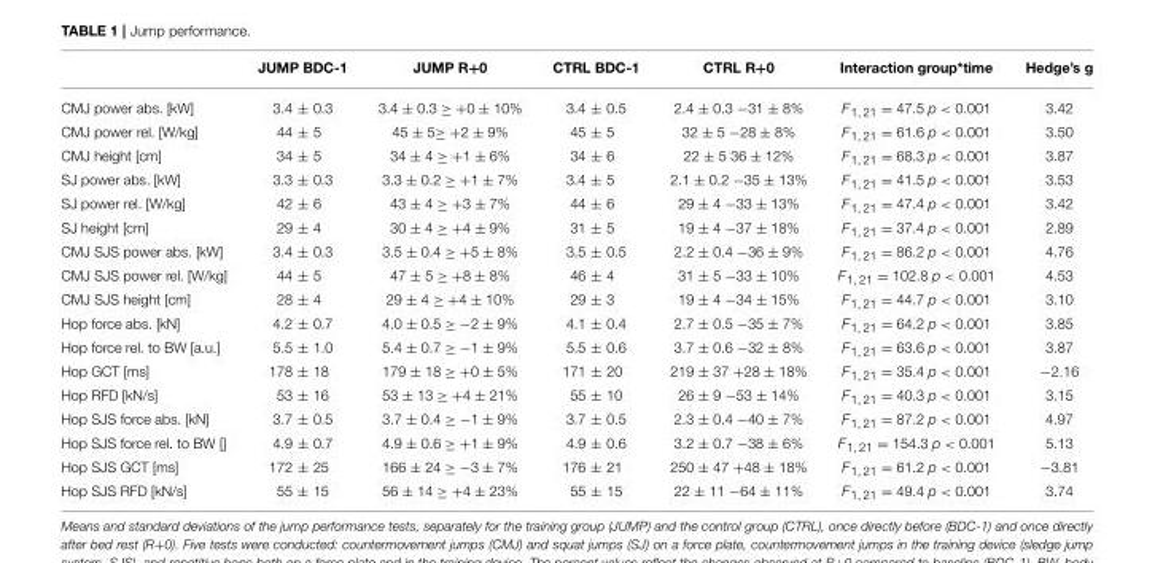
<table><thead><tr><td></td><td>JUMP BDC-1</td><td>JUMP R+0</td><td>CTRL BDC-1</td><td>CTRL R+0</td><td>Interaction group*time</td><td>Hedge’s g</td></tr></thead><tbody><tr><td>CMJ power abs. [kW]</td><td>3.4 ± 0.3</td><td>3.4 ± 0.3 ≥ +0 ± 10%</td><td>3.4 ± 0.5</td><td>2.4 ± 0.3 −31 ± 8%</td><td>F<sub>1, 21</sub> = 47.5 p &lt; 0.001</td><td>3.42</td></tr><tr><td>CMJ power rel. [W/kg]</td><td>44 ± 5</td><td>45 ± 5≥ +2 ± 9%</td><td>45 ± 5</td><td>32 ± 5 −28 ± 8%</td><td>F<sub>1, 21</sub> = 61.6 p &lt; 0.001</td><td>3.50</td></tr><tr><td>CMJ height [cm]</td><td>34 ± 5</td><td>34 ± 4 ≥ +1 ± 6%</td><td>34 ± 6</td><td>22 ± 5 36 ± 12%</td><td>F<sub>1, 21</sub> = 68.3 p &lt; 0.001</td><td>3.87</td></tr><tr><td>SJ power abs. [kW]</td><td>3.3 ± 0.3</td><td>3.3 ± 0.2 ≥ +1 ± 7%</td><td>3.4 ± 5</td><td>2.1 ± 0.2 −35 ± 13%</td><td>F<sub>1, 21</sub> = 41.5 p &lt; 0.001</td><td>3.53</td></tr><tr><td>SJ power rel. [W/kg]</td><td>42 ± 6</td><td>43 ± 4 ≥ +3 ± 7%</td><td>44 ± 6</td><td>29 ± 4 −33 ± 13%</td><td>F<sub>1, 21</sub> = 47.4 p &lt; 0.001</td><td>3.42</td></tr><tr><td>SJ height [cm]</td><td>29 ± 4</td><td>30 ± 4 ≥ +4 ± 9%</td><td>31 ± 5</td><td>19 ± 4 −37 ± 18%</td><td>F<sub>1, 21</sub> = 37.4 p &lt; 0.001</td><td>2.89</td></tr><tr><td>CMJ SJS power abs. [kW]</td><td>3.4 ± 0.3</td><td>3.5 ± 0.4 ≥ +5 ± 8%</td><td>3.5 ± 0.5</td><td>2.2 ± 0.4 −36 ± 9%</td><td>F<sub>1, 21</sub> = 86.2 p &lt; 0.001</td><td>4.76</td></tr><tr><td>CMJ SJS power rel. [W/kg]</td><td>44 ± 5</td><td>47 ± 5 ≥ +8 ± 8%</td><td>46 ± 4</td><td>31 ± 5 −33 ± 10%</td><td>F<sub>1, 21</sub> = 102.8 p &lt; 0.001</td><td>4.53</td></tr><tr><td>CMJ SJS height [cm]</td><td>28 ± 4</td><td>29 ± 4 ≥ +4 ± 10%</td><td>29 ± 3</td><td>19 ± 4 −34 ± 15%</td><td>F<sub>1, 21</sub> = 44.7 p &lt; 0.001</td><td>3.10</td></tr><tr><td>Hop force abs. [kN]</td><td>4.2 ± 0.7</td><td>4.0 ± 0.5 ≥ −2 ± 9%</td><td>4.1 ± 0.4</td><td>2.7 ± 0.5 −35 ± 7%</td><td>F<sub>1, 21</sub> = 64.2 p &lt; 0.001</td><td>3.85</td></tr><tr><td>Hop force rel. to BW [a.u.]</td><td>5.5 ± 1.0</td><td>5.4 ± 0.7 ≥ −1 ± 9%</td><td>5.5 ± 0.6</td><td>3.7 ± 0.6 −32 ± 8%</td><td>F<sub>1, 21</sub> = 63.6 p &lt; 0.001</td><td>3.87</td></tr><tr><td>Hop GCT [ms]</td><td>178 ± 18</td><td>179 ± 18 ≥ +0 ± 5%</td><td>171 ± 20</td><td>219 ± 37 +28 ± 18%</td><td>F<sub>1, 21</sub> = 35.4 p &lt; 0.001</td><td>−2.16</td></tr><tr><td>Hop RFD [kN/s]</td><td>53 ± 16</td><td>53 ± 13 ≥ +4 ± 21%</td><td>55 ± 10</td><td>26 ± 9 −53 ± 14%</td><td>F<sub>1, 21</sub> = 40.3 p &lt; 0.001</td><td>3.15</td></tr><tr><td>Hop SJS force abs. [kN]</td><td>3.7 ± 0.5</td><td>3.7 ± 0.4 ≥ −1 ± 9%</td><td>3.7 ± 0.5</td><td>2.3 ± 0.4 −40 ± 7%</td><td>F<sub>1, 21</sub> = 87.2 p &lt; 0.001</td><td>4.97</td></tr><tr><td>Hop SJS force rel. to BW []</td><td>4.9 ± 0.7</td><td>4.9 ± 0.6 ≥ +1 ± 9%</td><td>4.9 ± 0.6</td><td>3.2 ± 0.7 −38 ± 6%</td><td>F<sub>1, 21</sub> = 154.3 p &lt; 0.001</td><td>5.13</td></tr><tr><td>Hop SJS GCT [ms]</td><td>172 ± 25</td><td>166 ± 24 ≥ −3 ± 7%</td><td>176 ± 21</td><td>250 ± 47 +48 ± 18%</td><td>F<sub>1, 21</sub> = 61.2 p &lt; 0.001</td><td>−3.81</td></tr><tr><td>Hop SJS RFD [kN/s]</td><td>55 ± 15</td><td>56 ± 14 ≥ +4 ± 23%</td><td>55 ± 15</td><td>22 ± 11 −64 ± 11%</td><td>F<sub>1, 21</sub> = 49.4 p &lt; 0.001</td><td>3.74</td></tr></tbody></table>